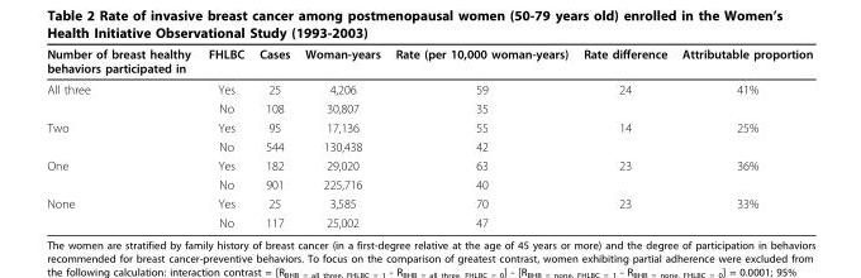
<table><thead><tr><td>Number of breast healthy behaviors participated in</td><td>FHLBC</td><td>Cases</td><td>Woman-years</td><td>Rate (per 10,000 woman-years)</td><td>Rate difference</td><td>Attributable proportion</td></tr></thead><tbody><tr><td rowspan="2">All three</td><td>Yes</td><td>25</td><td>4,206</td><td>59</td><td>24</td><td>41%</td></tr><tr><td>No</td><td>108</td><td>30,807</td><td>35</td><td></td><td></td></tr><tr><td rowspan="2">Two</td><td>Yes</td><td>95</td><td>17,136</td><td>55</td><td>14</td><td>25%</td></tr><tr><td>No</td><td>544</td><td>130,438</td><td>42</td><td></td><td></td></tr><tr><td rowspan="2">One</td><td>Yes</td><td>182</td><td>29,020</td><td>63</td><td>23</td><td>36%</td></tr><tr><td>No</td><td>901</td><td>225,716</td><td>40</td><td></td><td></td></tr><tr><td rowspan="2">None</td><td>Yes</td><td>25</td><td>3,585</td><td>70</td><td>23</td><td>33%</td></tr><tr><td>No</td><td>117</td><td>25,002</td><td>47</td><td></td><td></td></tr></tbody></table>